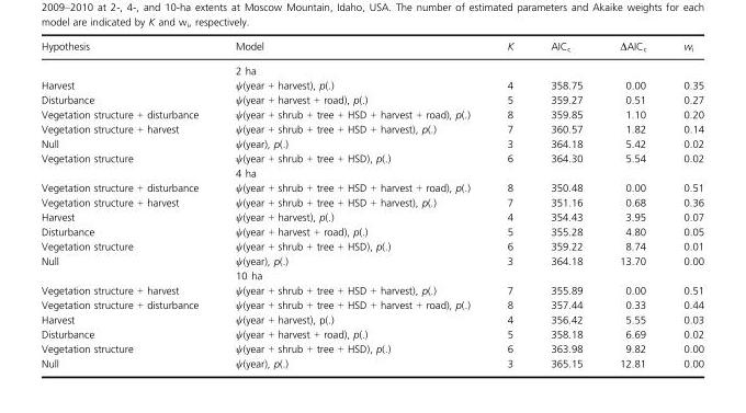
<table><thead><tr><td>Hypothesis</td><td>Model</td><td>K</td><td>AIC<sub>c</sub></td><td>ΔAIC<sub>c</sub></td><td>w<sub>i</sub></td></tr></thead><tbody><tr><td></td><td colspan="5">2 ha</td></tr><tr><td>Harvest</td><td>ψ(year + harvest), p(.)</td><td>4</td><td>358.75</td><td>0.00</td><td>0.35</td></tr><tr><td>Disturbance</td><td>ψ(year + harvest + road), p(.)</td><td>5</td><td>359.27</td><td>0.51</td><td>0.27</td></tr><tr><td>Vegetation structure + disturbance</td><td>ψ(year + shrub + tree + HSD + harvest + road), p(.)</td><td>8</td><td>359.85</td><td>1.10</td><td>0.20</td></tr><tr><td>Vegetation structure + harvest</td><td>ψ(year + shrub + tree + HSD + harvest), p(.)</td><td>7</td><td>360.57</td><td>1.82</td><td>0.14</td></tr><tr><td>Null</td><td>ψ(year), p(.)</td><td>3</td><td>364.18</td><td>5.42</td><td>0.02</td></tr><tr><td rowspan="2">Vegetation structure</td><td>ψ(year + shrub + tree + HSD), p(.)</td><td>6</td><td>364.30</td><td>5.54</td><td>0.02</td></tr><tr><td colspan="5">4 ha</td></tr><tr><td>Vegetation structure + disturbance</td><td>ψ(year + shrub + tree + HSD + harvest + road), p(.)</td><td>8</td><td>350.48</td><td>0.00</td><td>0.51</td></tr><tr><td>Vegetation structure + harvest</td><td>ψ(year + shrub + tree + HSD + harvest), p(.)</td><td>7</td><td>351.16</td><td>0.68</td><td>0.36</td></tr><tr><td>Harvest</td><td>ψ(year + harvest), p(.)</td><td>4</td><td>354.43</td><td>3.95</td><td>0.07</td></tr><tr><td>Disturbance</td><td>ψ(year + harvest + road), p(.)</td><td>5</td><td>355.28</td><td>4.80</td><td>0.05</td></tr><tr><td>Vegetation structure</td><td>ψ(year + shrub + tree + HSD), p(.)</td><td>6</td><td>359.22</td><td>8.74</td><td>0.01</td></tr><tr><td rowspan="2">Null</td><td>ψ(year), p(.)</td><td>3</td><td>364.18</td><td>13.70</td><td>0.00</td></tr><tr><td colspan="5">10 ha</td></tr><tr><td>Vegetation structure + harvest</td><td>ψ(year + shrub + tree + HSD + harvest), p(.)</td><td>7</td><td>355.89</td><td>0.00</td><td>0.51</td></tr><tr><td>Vegetation structure + disturbance</td><td>ψ(year + shrub + tree + HSD + harvest + road), p(.)</td><td>8</td><td>357.44</td><td>0.33</td><td>0.44</td></tr><tr><td>Harvest</td><td>ψ(year + harvest), p(.)</td><td>4</td><td>356.42</td><td>5.55</td><td>0.03</td></tr><tr><td>Disturbance</td><td>ψ(year + harvest + road), p(.)</td><td>5</td><td>358.18</td><td>6.69</td><td>0.02</td></tr><tr><td>Vegetation structure</td><td>ψ(year + shrub + tree + HSD), p(.)</td><td>6</td><td>363.98</td><td>9.82</td><td>0.00</td></tr><tr><td>Null</td><td>ψ(year), p(.)</td><td>3</td><td>365.15</td><td>12.81</td><td>0.00</td></tr></tbody></table>